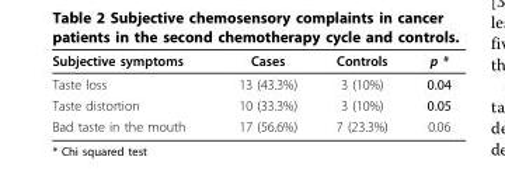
<table><thead><tr><td>Subjective symptoms</td><td>Cases</td><td>Controls</td><td>p *</td></tr></thead><tbody><tr><td>Taste loss</td><td>13 (43.3%)</td><td>3 (10%)</td><td>0.04</td></tr><tr><td>Taste distortion</td><td>10 (33.3%)</td><td>3 (10%)</td><td>0.05</td></tr><tr><td>Bad taste in the mouth</td><td>17 (56.6%)</td><td>7 (23.3%)</td><td>0.06</td></tr></tbody></table>